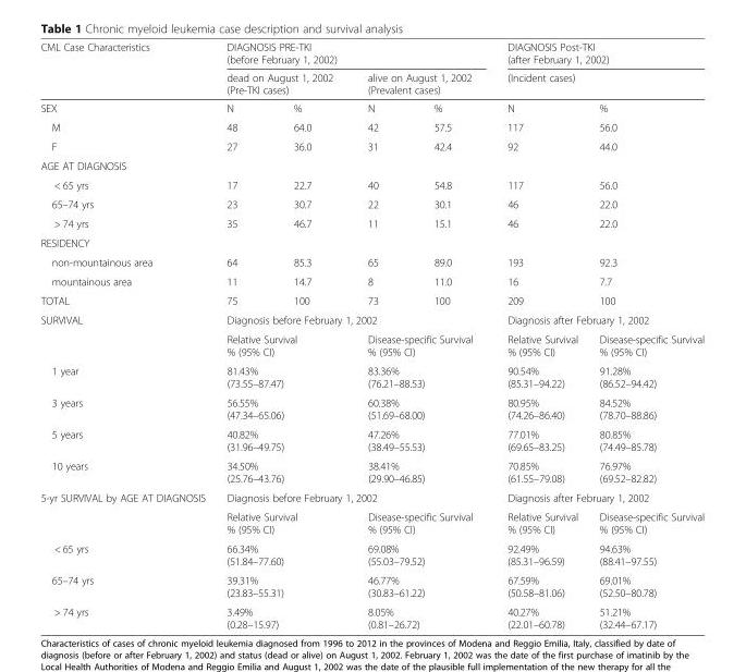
<table><thead><tr><td rowspan="3">CML Case Characteristics SEX</td><td colspan="4">DIAGNOSIS PRE-TKI (before February 1, 2002)</td><td rowspan="2" colspan="2">DIAGNOSIS Post-TKI (after February 1, 2002) (Incident cases)</td></tr><tr><td colspan="2">dead on August 1, 2002 (Pre-TKI cases)</td><td colspan="2">alive on August 1, 2002 (Prevalent cases)</td></tr><tr><td>N</td><td>%</td><td>N</td><td>%</td><td>N</td><td>%</td></tr></thead><tbody><tr><td>M</td><td>48</td><td>64.0</td><td>42</td><td>57.5</td><td>117</td><td>56.0</td></tr><tr><td>F</td><td>27</td><td>36.0</td><td>31</td><td>42.4</td><td>92</td><td>44.0</td></tr><tr><td colspan="7">AGE AT DIAGNOSIS</td></tr><tr><td>&lt; 65 yrs</td><td>17</td><td>22.7</td><td>40</td><td>54.8</td><td>117</td><td>56.0</td></tr><tr><td>65–74 yrs</td><td>23</td><td>30.7</td><td>22</td><td>30.1</td><td>46</td><td>22.0</td></tr><tr><td>&gt; 74 yrs</td><td>35</td><td>46.7</td><td>11</td><td>15.1</td><td>46</td><td>22.0</td></tr><tr><td colspan="7">RESIDENCY</td></tr><tr><td>non-mountainous area</td><td>64</td><td>85.3</td><td>65</td><td>89.0</td><td>193</td><td>92.3</td></tr><tr><td>mountainous area</td><td>11</td><td>14.7</td><td>8</td><td>11.0</td><td>16</td><td>7.7</td></tr><tr><td>TOTAL</td><td>75</td><td>100</td><td>73</td><td>100</td><td>209</td><td>100</td></tr><tr><td rowspan="2">SURVIVAL</td><td colspan="4">Diagnosis before February 1, 2002</td><td colspan="2">Diagnosis after February 1, 2002</td></tr><tr><td colspan="2">Relative Survival % (95% CI)</td><td colspan="2">Disease-specific Survival % (95% CI)</td><td>Relative Survival % (95% CI)</td><td>Disease-specific Survival % (95% CI)</td></tr><tr><td>1 year</td><td colspan="2">81.43% (73.55–87.47)</td><td colspan="2">83.36% (76.21–88.53)</td><td>90.54% (85.31–94.22)</td><td>91.28% (86.52–94.42)</td></tr><tr><td>3 years</td><td colspan="2">56.55% (47.34–65.06)</td><td colspan="2">60.38% (51.69–68.00)</td><td>80.95% (74.26–86.40)</td><td>84.52% (78.70–88.86)</td></tr><tr><td>5 years</td><td colspan="2">40.82% (31.96–49.75)</td><td colspan="2">47.26% (38.49–55.53)</td><td>77.01% (69.65–83.25)</td><td>80.85% (74.49–85.78)</td></tr><tr><td>10 years</td><td colspan="2">34.50% (25.76–43.76)</td><td colspan="2">38.41% (29.90–46.85)</td><td>70.85% (61.55–79.08)</td><td>76.97% (69.52–82.82)</td></tr><tr><td rowspan="2">5-yr SURVIVAL by AGE AT DIAGNOSIS</td><td colspan="4">Diagnosis before February 1, 2002</td><td colspan="2">Diagnosis after February 1, 2002</td></tr><tr><td colspan="2">Relative Survival % (95% CI)</td><td colspan="2">Disease-specific Survival % (95% CI)</td><td>Relative Survival % (95% CI)</td><td>Disease-specific Survival % (95% CI)</td></tr><tr><td>&lt; 65 yrs</td><td colspan="2">66.34% (51.84–77.60)</td><td colspan="2">69.08% (55.03–79.52)</td><td>92.49% (85.31–96.59)</td><td>94.63% (88.41–97.55)</td></tr><tr><td>65–74 yrs</td><td colspan="2">39.31% (23.83–55.31)</td><td colspan="2">46.77% (30.83–61.22)</td><td>67.59% (50.58–81.06)</td><td>69.01% (52.50–80.78)</td></tr><tr><td>&gt; 74 yrs</td><td colspan="2">3.49% (0.28–15.97)</td><td colspan="2">8.05% (0.81–26.72)</td><td>40.27% (22.01–60.78)</td><td>51.21% (32.44–67.17)</td></tr></tbody></table>